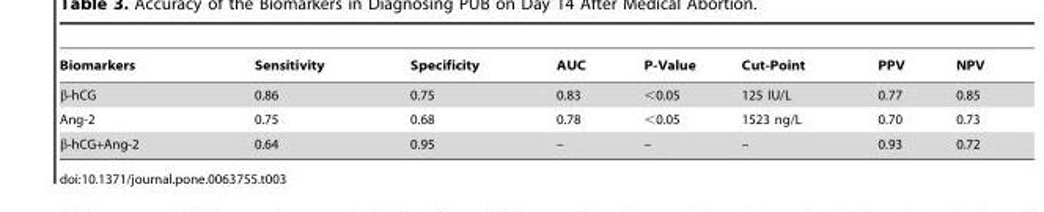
<table><thead><tr><td>Biomarkers</td><td>Sensitivity</td><td>Specificity</td><td>AUC</td><td>P-Value</td><td>Cut-Point</td><td>PPV</td><td>NPV</td></tr></thead><tbody><tr><td>β-hCG</td><td>0.86</td><td>0.75</td><td>0.83</td><td>&lt;0.05</td><td>125 IU/L</td><td>0.77</td><td>0.85</td></tr><tr><td>Ang-2</td><td>0.75</td><td>0.68</td><td>0.78</td><td>&lt;0.05</td><td>1523 ng/L</td><td>0.70</td><td>0.73</td></tr><tr><td>β-hCG+Ang-2</td><td>0.64</td><td>0.95</td><td>–</td><td>–</td><td>–</td><td>0.93</td><td>0.72</td></tr></tbody></table>